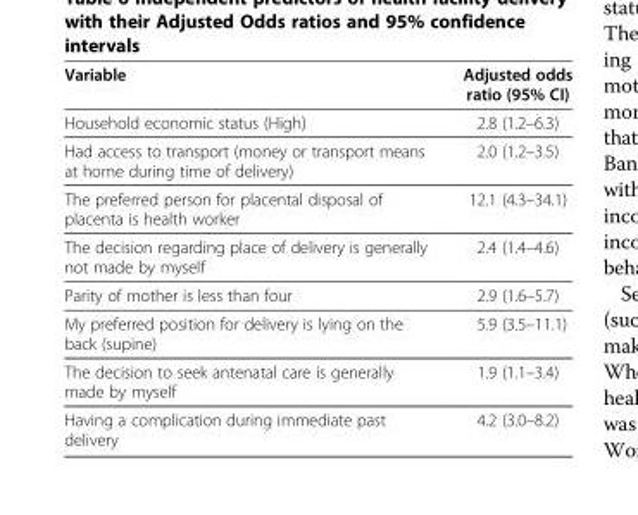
<table><thead><tr><td>Variable</td><td>Adjusted odds ratio (95% CI)</td></tr></thead><tbody><tr><td>Household economic status (High)</td><td>2.8 (1.2–6.3)</td></tr><tr><td>Had access to transport (money or transport means at home during time of delivery)</td><td>2.0 (1.2–3.5)</td></tr><tr><td>The preferred person for placental disposal of placenta is health worker</td><td>12.1 (4.3–34.1)</td></tr><tr><td>The decision regarding place of delivery is generally not made by myself</td><td>2.4 (1.4–4.6)</td></tr><tr><td>Parity of mother is less than four</td><td>2.9 (1.6–5.7)</td></tr><tr><td>My preferred position for delivery is lying on the back (supine)</td><td>5.9 (3.5–11.1)</td></tr><tr><td>The decision to seek antenatal care is generally made by myself</td><td>1.9 (1.1–3.4)</td></tr><tr><td>Having a complication during immediate past delivery</td><td>4.2 (3.0–8.2)</td></tr></tbody></table>